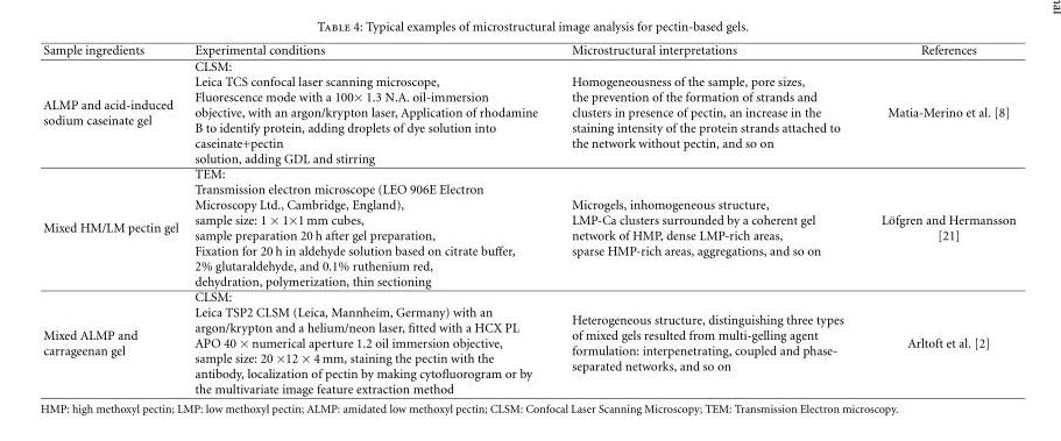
<table><thead><tr><td>Sample ingredients</td><td>Experimental conditions</td><td>Microstructural interpretations</td><td>References</td></tr></thead><tbody><tr><td>ALMP and acid-induced sodium caseinate gel</td><td>CLSM: Leica TCS confocal laser scanning microscope, Fluorescence mode with a 100× 1.3 N.A. oil-immersion objective, with an argon/krypton laser, Application of rhodamine B to identify protein, adding droplets of dye solution into caseinate+pectin solution, adding GDL and stirring</td><td>Homogeneousness of the sample, pore sizes, the prevention of the formation of strands and clusters in presence of pectin, an increase in the staining intensity of the protein strands attached to the network without pectin, and so on</td><td>Matia-Merino et al. [8]</td></tr><tr><td>Mixed HM/LM pectin gel</td><td>TEM: Transmission electron microscope (LEO 906E Electron Microscopy Ltd., Cambridge, England), sample size: 1 × 1×1 mm cubes, sample preparation 20 h after gel preparation, Fixation for 20 h in aldehyde solution based on citrate buffer, 2% glutaraldehyde, and 0.1% ruthenium red, dehydration, polymerization, thin sectioning</td><td>Microgels, inhomogeneous structure, LMP-Ca clusters surrounded by a coherent gel network of HMP, dense LMP-rich areas, sparse HMP-rich areas, aggregations, and so on</td><td>L¨ofgren and Hermansson [21]</td></tr><tr><td>Mixed ALMP and carrageenan gel</td><td>CLSM: Leica TSP2 CLSM (Leica, Mannheim, Germany) with an argon/krypton and a helium/neon laser, fitted with a HCX PL APO 40 × numerical aperture 1.2 oil immersion objective, sample size: 20 ×12 × 4 mm, staining the pectin with the antibody, localization of pectin by making cytofluorogram or by the multivariate image feature extraction method</td><td>Heterogeneous structure, distinguishing three types of mixed gels resulted from multi-gelling agent formulation: interpenetrating, coupled and phase- separated networks, and so on</td><td>Arltoft et al. [2]</td></tr></tbody></table>